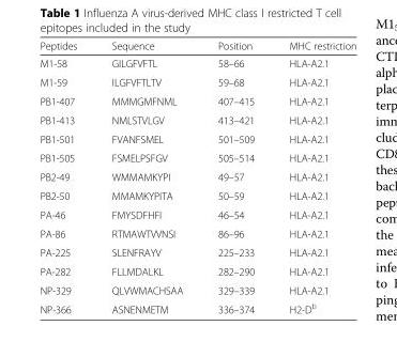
<table><thead><tr><td>Peptides</td><td>Sequence</td><td>Position</td><td>MHC restriction</td></tr></thead><tbody><tr><td>M1-58</td><td>GILGFVFTL</td><td>58–66</td><td>HLA-A2.1</td></tr><tr><td>M1-59</td><td>ILGFVFTLTV</td><td>59–68</td><td>HLA-A2.1</td></tr><tr><td>PB1-407</td><td>MMMGMFNML</td><td>407–415</td><td>HLA-A2.1</td></tr><tr><td>PB1-413</td><td>NMLSTVLGV</td><td>413–421</td><td>HLA-A2.1</td></tr><tr><td>PB1-501</td><td>FVANFSMEL</td><td>501–509</td><td>HLA-A2.1</td></tr><tr><td>PB1-505</td><td>FSMELPSFGV</td><td>505–514</td><td>HLA-A2.1</td></tr><tr><td>PB2-49</td><td>WMMAMKYPI</td><td>49–57</td><td>HLA-A2.1</td></tr><tr><td>PB2-50</td><td>MMAMKYPITA</td><td>50–59</td><td>HLA-A2.1</td></tr><tr><td>PA-46</td><td>FMYSDFHFI</td><td>46–54</td><td>HLA-A2.1</td></tr><tr><td>PA-86</td><td>RTMAWTVVNSI</td><td>86–96</td><td>HLA-A2.1</td></tr><tr><td>PA-225</td><td>SLENFRAYV</td><td>225–233</td><td>HLA-A2.1</td></tr><tr><td>PA-282</td><td>FLLMDALKL</td><td>282–290</td><td>HLA-A2.1</td></tr><tr><td>NP-329</td><td>QLVWMACHSAA</td><td>329–339</td><td>HLA-A2.1</td></tr><tr><td>NP-366</td><td>ASNENMETM</td><td>336–374</td><td>H2-D<sup>b</sup></td></tr></tbody></table>